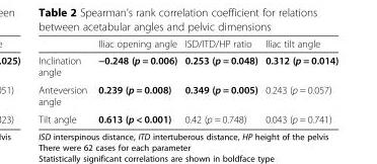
<table><thead><tr><td></td><td>Iliac opening angle</td><td>ISD/ITD/HP ratio</td><td>Iliac tilt angle</td></tr></thead><tbody><tr><td>Inclination angle</td><td>−0.248 (p = 0.006)</td><td>0.253 (p = 0.048)</td><td>0.312 (p = 0.014)</td></tr><tr><td>Anteversion angle</td><td>0.239 (p = 0.008)</td><td>0.349 (p = 0.005)</td><td>0.243 (p = 0.057)</td></tr><tr><td>Tilt angle</td><td>0.613 (p &lt; 0.001)</td><td>0.42 (p = 0.748)</td><td>0.043 (p = 0.741)</td></tr></tbody></table>